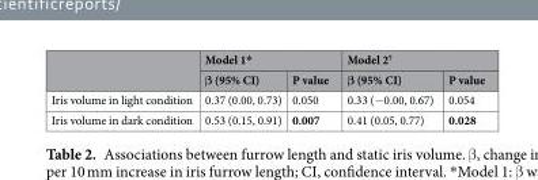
<table><thead><tr><td rowspan="2"></td><td colspan="2">Model 1*</td><td colspan="2">Model 2<sup>†</sup></td></tr><tr><td>β (95% CI)</td><td>P value</td><td>β (95% CI)</td><td>P value</td></tr></thead><tbody><tr><td>Iris volume in light condition</td><td>0.37 (0.00, 0.73)</td><td>0.050</td><td>0.33 (−0.00, 0.67)</td><td>0.054</td></tr><tr><td>Iris volume in dark condition</td><td>0.53 (0.15, 0.91)</td><td>0.007</td><td>0.41 (0.05, 0.77)</td><td>0.028</td></tr></tbody></table>